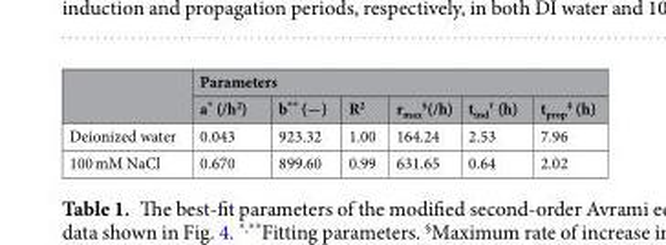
<table><thead><tr><td rowspan="2"></td><td colspan="6">Parameters</td></tr><tr><td>a* (/h<sup>2</sup>)</td><td>b** (−)</td><td>R<sup>2</sup></td><td>r<sub>max</sub> <sup>§</sup>(/h)</td><td>t<sub>ind</sub> <sup>†</sup> (h)</td><td>t<sub>prop</sub> <sup>‡</sup> (h)</td></tr></thead><tbody><tr><td>Deionized water</td><td>0.043</td><td>923.32</td><td>1.00</td><td>164.24</td><td>2.53</td><td>7.96</td></tr><tr><td>100 mM NaCl</td><td>0.670</td><td>899.60</td><td>0.99</td><td>631.65</td><td>0.64</td><td>2.02</td></tr></tbody></table>